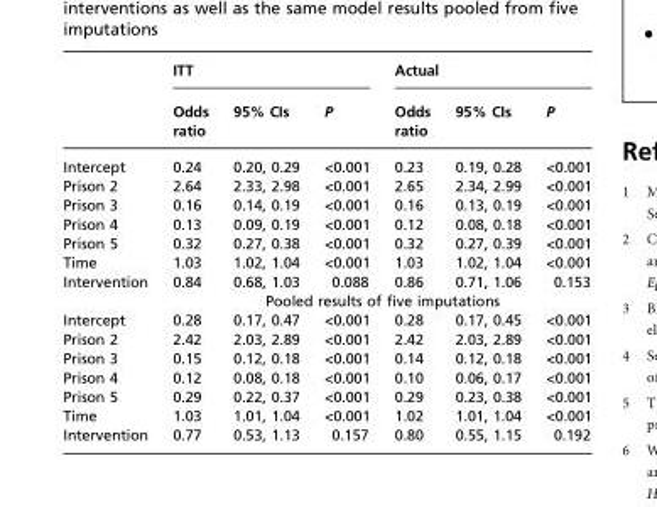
<table><thead><tr><td rowspan="2"></td><td colspan="3">ITT</td><td colspan="3">Actual</td></tr><tr><td>Odds ratio</td><td>95% CIs</td><td>P</td><td>Odds ratio</td><td>95% CIs</td><td>P</td></tr></thead><tbody><tr><td>Intercept</td><td>0.24</td><td>0.20, 0.29</td><td>&lt;0.001</td><td>0.23</td><td>0.19, 0.28</td><td>&lt;0.001</td></tr><tr><td>Prison 2</td><td>2.64</td><td>2.33, 2.98</td><td>&lt;0.001</td><td>2.65</td><td>2.34, 2.99</td><td>&lt;0.001</td></tr><tr><td>Prison 3</td><td>0.16</td><td>0.14, 0.19</td><td>&lt;0.001</td><td>0.16</td><td>0.13, 0.19</td><td>&lt;0.001</td></tr><tr><td>Prison 4</td><td>0.13</td><td>0.09, 0.19</td><td>&lt;0.001</td><td>0.12</td><td>0.08, 0.18</td><td>&lt;0.001</td></tr><tr><td>Prison 5</td><td>0.32</td><td>0.27, 0.38</td><td>&lt;0.001</td><td>0.32</td><td>0.27, 0.39</td><td>&lt;0.001</td></tr><tr><td>Time</td><td>1.03</td><td>1.02, 1.04</td><td>&lt;0.001</td><td>1.03</td><td>1.02, 1.04</td><td>&lt;0.001</td></tr><tr><td rowspan="2">Intervention</td><td>0.84</td><td>0.68, 1.03</td><td>0.088</td><td>0.86</td><td>0.71, 1.06</td><td>0.153</td></tr><tr><td colspan="6">Pooled results of five imputations</td></tr><tr><td>Intercept</td><td>0.28</td><td>0.17, 0.47</td><td>&lt;0.001</td><td>0.28</td><td>0.17, 0.45</td><td>&lt;0.001</td></tr><tr><td>Prison 2</td><td>2.42</td><td>2.03, 2.89</td><td>&lt;0.001</td><td>2.42</td><td>2.03, 2.89</td><td>&lt;0.001</td></tr><tr><td>Prison 3</td><td>0.15</td><td>0.12, 0.18</td><td>&lt;0.001</td><td>0.14</td><td>0.12, 0.18</td><td>&lt;0.001</td></tr><tr><td>Prison 4</td><td>0.12</td><td>0.08, 0.18</td><td>&lt;0.001</td><td>0.10</td><td>0.06, 0.17</td><td>&lt;0.001</td></tr><tr><td>Prison 5</td><td>0.29</td><td>0.22, 0.37</td><td>&lt;0.001</td><td>0.29</td><td>0.23, 0.38</td><td>&lt;0.001</td></tr><tr><td>Time</td><td>1.03</td><td>1.01, 1.04</td><td>&lt;0.001</td><td>1.02</td><td>1.01, 1.04</td><td>&lt;0.001</td></tr><tr><td>Intervention</td><td>0.77</td><td>0.53, 1.13</td><td>0.157</td><td>0.80</td><td>0.55, 1.15</td><td>0.192</td></tr></tbody></table>